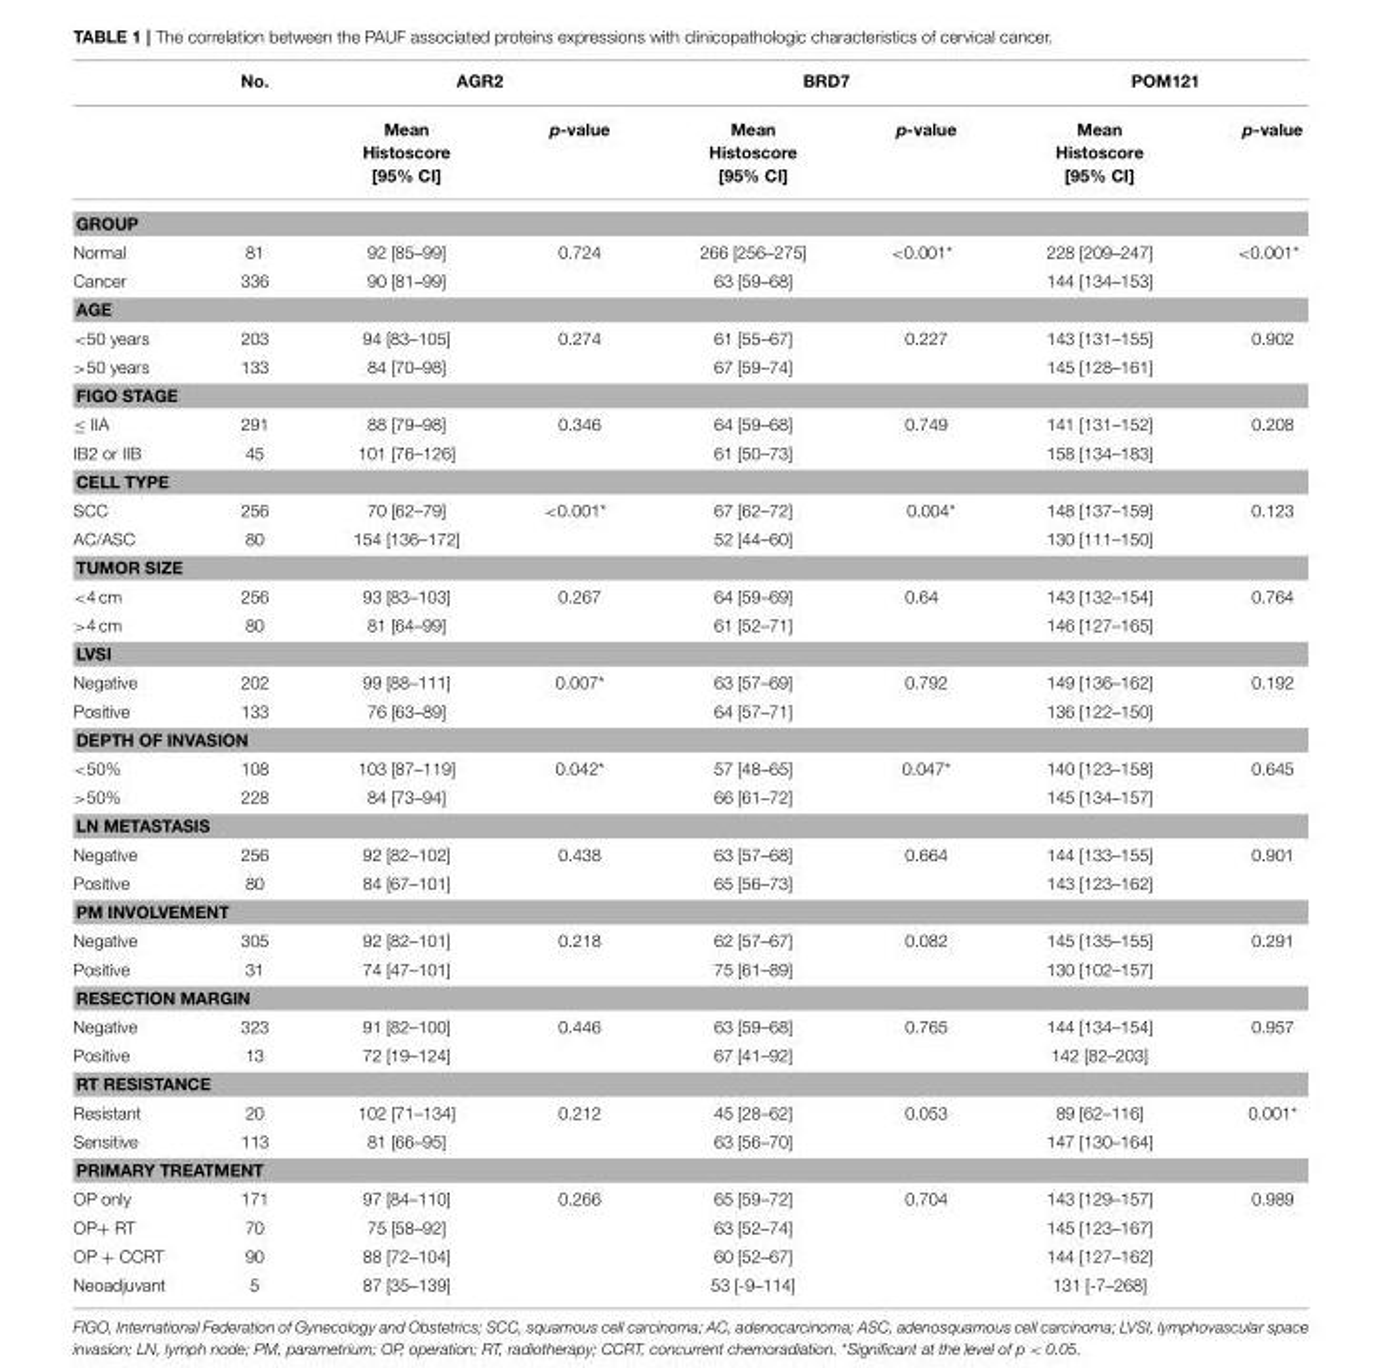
<table><thead><tr><td rowspan="2"></td><td rowspan="2">No.</td><td colspan="2">AGR2</td><td colspan="2">BRD7</td><td colspan="2">POM121</td></tr><tr><td>Mean Histoscore [95% CI]</td><td>p-value</td><td>Mean Histoscore [95% CI]</td><td>p-value</td><td>Mean Histoscore [95% CI]</td><td>p-value</td></tr></thead><tbody><tr><td colspan="8">GROUP</td></tr><tr><td>Normal</td><td>81</td><td>92 [85–99]</td><td>0.724</td><td>266 [256–275]</td><td>&lt;0.001*</td><td>228 [209–247]</td><td>&lt;0.001*</td></tr><tr><td>Cancer</td><td>336</td><td>90 [81–99]</td><td></td><td>63 [59–68]</td><td></td><td>144 [134–153]</td><td></td></tr><tr><td colspan="8">AGE</td></tr><tr><td>&lt;50 years</td><td>203</td><td>94 [83–105]</td><td>0.274</td><td>61 [55–67]</td><td>0.227</td><td>143 [131–155]</td><td>0.902</td></tr><tr><td>&gt;50 years</td><td>133</td><td>84 [70–98]</td><td></td><td>67 [59–74]</td><td></td><td>145 [128–161]</td><td></td></tr><tr><td colspan="8">FIGO STAGE</td></tr><tr><td>≤ IIA</td><td>291</td><td>88 [79–98]</td><td>0.346</td><td>64 [59–68]</td><td>0.749</td><td>141 [131–152]</td><td>0.208</td></tr><tr><td>IB2 or IIB</td><td>45</td><td>101 [76–126]</td><td></td><td>61 [50–73]</td><td></td><td>158 [134–183]</td><td></td></tr><tr><td colspan="8">CELL TYPE</td></tr><tr><td>SCC</td><td>256</td><td>70 [62–79]</td><td>&lt;0.001*</td><td>67 [62–72]</td><td>0.004*</td><td>148 [137–159]</td><td>0.123</td></tr><tr><td>AC/ASC</td><td>80</td><td>154 [136–172]</td><td></td><td>52 [44–60]</td><td></td><td>130 [111–150]</td><td></td></tr><tr><td colspan="8">TUMOR SIZE</td></tr><tr><td>&lt;4 cm</td><td>256</td><td>93 [83–103]</td><td>0.267</td><td>64 [59–69]</td><td>0.64</td><td>143 [132–154]</td><td>0.764</td></tr><tr><td>&gt;4 cm</td><td>80</td><td>81 [64–99]</td><td></td><td>61 [52–71]</td><td></td><td>146 [127–165]</td><td></td></tr><tr><td colspan="8">LVSI</td></tr><tr><td>Negative</td><td>202</td><td>99 [88–111]</td><td>0.007*</td><td>63 [57–69]</td><td>0.792</td><td>149 [136–162]</td><td>0.192</td></tr><tr><td>Positive</td><td>133</td><td>76 [63–89]</td><td></td><td>64 [57–71]</td><td></td><td>136 [122–150]</td><td></td></tr><tr><td colspan="8">DEPTH OF INVASION</td></tr><tr><td>&lt;50%</td><td>108</td><td>103 [87–119]</td><td>0.042*</td><td>57 [48–65]</td><td>0.047*</td><td>140 [123–158]</td><td>0.645</td></tr><tr><td>&gt;50%</td><td>228</td><td>84 [73–94]</td><td></td><td>66 [61–72]</td><td></td><td>145 [134–157]</td><td></td></tr><tr><td colspan="8">LN METASTASIS</td></tr><tr><td>Negative</td><td>256</td><td>92 [82–102]</td><td>0.438</td><td>63 [57–68]</td><td>0.664</td><td>144 [133–155]</td><td>0.901</td></tr><tr><td>Positive</td><td>80</td><td>84 [67–101]</td><td></td><td>65 [56–73]</td><td></td><td>143 [123–162]</td><td></td></tr><tr><td colspan="8">PM INVOLVEMENT</td></tr><tr><td>Negative</td><td>305</td><td>92 [82–101]</td><td>0.218</td><td>62 [57–67]</td><td>0.082</td><td>145 [135–155]</td><td>0.291</td></tr><tr><td>Positive</td><td>31</td><td>74 [47–101]</td><td></td><td>75 [61–89]</td><td></td><td>130 [102–157]</td><td></td></tr><tr><td colspan="8">RESECTION MARGIN</td></tr><tr><td>Negative</td><td>323</td><td>91 [82–100]</td><td>0.446</td><td>63 [59–68]</td><td>0.765</td><td>144 [134–154]</td><td>0.957</td></tr><tr><td>Positive</td><td>13</td><td>72 [19–124]</td><td></td><td>67 [41–92]</td><td></td><td>142 [82–203]</td><td></td></tr><tr><td colspan="8">RT RESISTANCE</td></tr><tr><td>Resistant</td><td>20</td><td>102 [71–134]</td><td>0.212</td><td>45 [28–62]</td><td>0.053</td><td>89 [62–116]</td><td>0.001*</td></tr><tr><td>Sensitive</td><td>113</td><td>81 [66–95]</td><td></td><td>63 [56–70]</td><td></td><td>147 [130–164]</td><td></td></tr><tr><td colspan="8">PRIMARY TREATMENT</td></tr><tr><td>OP only</td><td>171</td><td>97 [84–110]</td><td>0.266</td><td>65 [59–72]</td><td>0.704</td><td>143 [129–157]</td><td>0.989</td></tr><tr><td>OP+ RT</td><td>70</td><td>75 [58–92]</td><td></td><td>63 [52–74]</td><td></td><td>145 [123–167]</td><td></td></tr><tr><td>OP + CCRT</td><td>90</td><td>88 [72–104]</td><td></td><td>60 [52–67]</td><td></td><td>144 [127–162]</td><td></td></tr><tr><td>Neoadjuvant</td><td>5</td><td>87 [35–139]</td><td></td><td>53 [-9–114]</td><td></td><td>131 [-7–268]</td><td></td></tr></tbody></table>